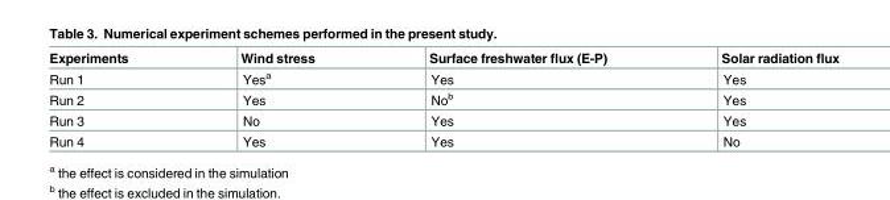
<table><thead><tr><td>Experiments</td><td>Wind stress</td><td>Surface freshwater flux (E-P)</td><td>Solar radiation flux</td></tr></thead><tbody><tr><td>Run 1</td><td>Yes<sup>a</sup></td><td>Yes</td><td>Yes</td></tr><tr><td>Run 2</td><td>Yes</td><td>No<sup>b</sup></td><td>Yes</td></tr><tr><td>Run 3</td><td>No</td><td>Yes</td><td>Yes</td></tr><tr><td>Run 4</td><td>Yes</td><td>Yes</td><td>No</td></tr></tbody></table>